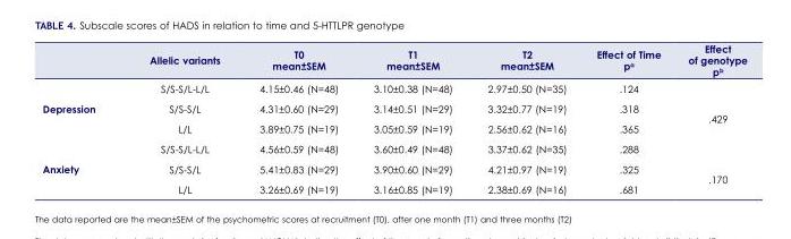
<table><thead><tr><td></td><td>Allelic variants</td><td>T0 mean±SEM</td><td>T1 mean±SEM</td><td>T2 mean±SEM</td><td>Effect of Time p<sup>a</sup></td><td>Effect of genotype p<sup>b</sup></td></tr></thead><tbody><tr><td rowspan="3">Depression</td><td>S/S-S/L-L/L</td><td>4.15±0.46 (N=48)</td><td>3.10±0.38 (N=48)</td><td>2.97±0.50 (N=35)</td><td>.124</td><td rowspan="3">.429</td></tr><tr><td>S/S-S/L</td><td>4.31±0.60 (N=29)</td><td>3.14±0.51 (N=29)</td><td>3.32±0.77 (N=19)</td><td>.318</td></tr><tr><td>L/L</td><td>3.89±0.75 (N=19)</td><td>3.05±0.59 (N=19)</td><td>2.56±0.62 (N=16)</td><td>.365</td></tr><tr><td rowspan="3">Anxiety</td><td>S/S-S/L-L/L</td><td>4.56±0.59 (N=48)</td><td>3.60±0.49 (N=48)</td><td>3.37±0.62 (N=35)</td><td>.288</td><td rowspan="3">.170</td></tr><tr><td>S/S-S/L</td><td>5.41±0.83 (N=29)</td><td>3.90±0.60 (N=29)</td><td>4.21±0.97 (N=19)</td><td>.325</td></tr><tr><td>L/L</td><td>3.26±0.69 (N=19)</td><td>3.16±0.85 (N=19)</td><td>2.38±0.69 (N=16)</td><td>.681</td></tr></tbody></table>